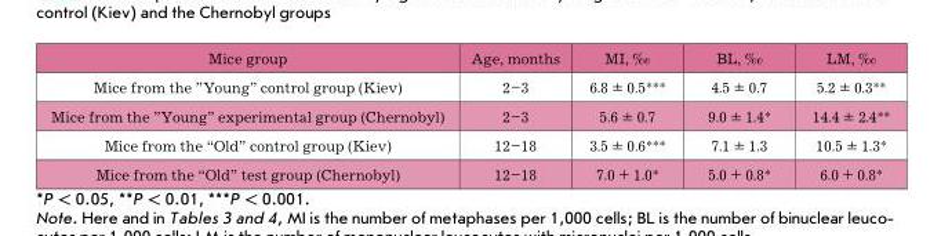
<table><thead><tr><td>Mice group</td><td>Age, months</td><td>MI, ‰</td><td>BL, ‰</td><td>LM, ‰</td></tr></thead><tbody><tr><td>Mice from the ”Young” control group (Kiev)</td><td>2–3</td><td>6.8 ± 0.5***</td><td>4.5 ± 0.7</td><td>5.2 ± 0.3**</td></tr><tr><td>Mice from the ”Young” experimental group (chernobyl)</td><td>2–3</td><td>5.6 ± 0.7</td><td>9.0 ± 1.4*</td><td>14.4 ± 2.4**</td></tr><tr><td>Mice from the “Old” control group (Kiev)</td><td>12–18</td><td>3.5 ± 0.6***</td><td>7.1 ± 1.3</td><td>10.5 ± 1.3*</td></tr><tr><td>Mice from the “Old” test group (chernobyl)</td><td>12–18</td><td>7.0 + 1.0*</td><td>5.0 + 0.8*</td><td>6.0 + 0.8*</td></tr></tbody></table>